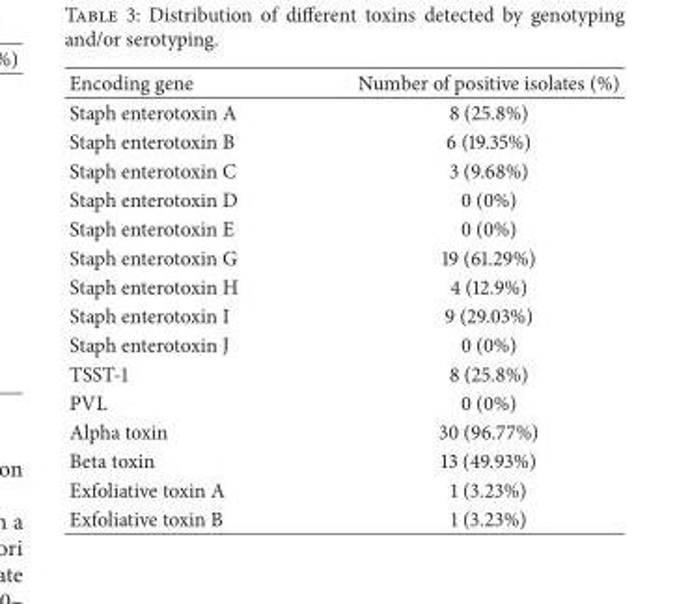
<table><thead><tr><td>Encoding gene</td><td>Number of positive isolates (%)</td></tr></thead><tbody><tr><td>Staph enterotoxin A</td><td>8 (25.8%)</td></tr><tr><td>Staph enterotoxin B</td><td>6 (19.35%)</td></tr><tr><td>Staph enterotoxin C</td><td>3 (9.68%)</td></tr><tr><td>Staph enterotoxin D</td><td>0 (0%)</td></tr><tr><td>Staph enterotoxin E</td><td>0 (0%)</td></tr><tr><td>Staph enterotoxin G</td><td>19 (61.29%)</td></tr><tr><td>Staph enterotoxin H</td><td>4 (12.9%)</td></tr><tr><td>Staph enterotoxin I</td><td>9 (29.03%)</td></tr><tr><td>Staph enterotoxin J</td><td>0 (0%)</td></tr><tr><td>TSST-1</td><td>8 (25.8%)</td></tr><tr><td>PVL</td><td>0 (0%)</td></tr><tr><td>Alpha toxin</td><td>30 (96.77%)</td></tr><tr><td>Beta toxin</td><td>13 (49.93%)</td></tr><tr><td>Exfoliative toxin A</td><td>1 (3.23%)</td></tr><tr><td>Exfoliative toxin B</td><td>1 (3.23%)</td></tr></tbody></table>